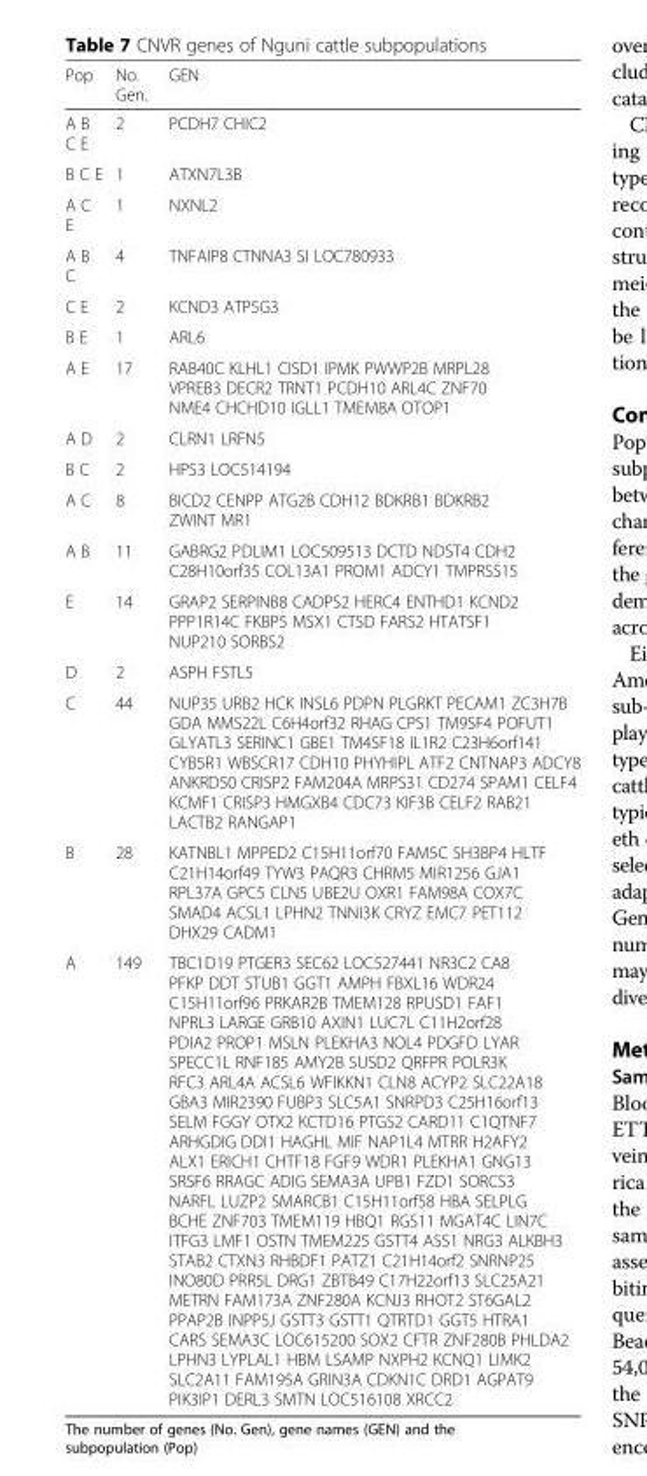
<table><thead><tr><td>Pop</td><td>No. Gen.</td><td>GEN</td></tr></thead><tbody><tr><td>A B C E</td><td>2</td><td>PCDH7 CHIC2</td></tr><tr><td>B C E</td><td>1</td><td>ATXN7L3B</td></tr><tr><td>A C E</td><td>1</td><td>NXNL2</td></tr><tr><td>A B C</td><td>4</td><td>TNFAIP8 CTNNA3 SI LOC780933</td></tr><tr><td>C E</td><td>2</td><td>KCND3 ATP5G3</td></tr><tr><td>B E</td><td>1</td><td>ARL6</td></tr><tr><td>A E</td><td>17</td><td>RAB40C KLHL1 CISD1 IPMK PWWP2B MRPL28 VPREB3 DECR2 TRNT1 PCDH10 ARL4C ZNF70 NME4 CHCHD10 IGLL1 TMEM8A OTOP1</td></tr><tr><td>A D</td><td>2</td><td>CLRN1 LRFN5</td></tr><tr><td>B C</td><td>2</td><td>HPS3 LOC514194</td></tr><tr><td>A C</td><td>8</td><td>BICD2 CENPP ATG2B CDH12 BDKRB1 BDKRB2 ZWINT MR1</td></tr><tr><td>A B</td><td>11</td><td>GABRG2 PDLIM1 LOC509513 DCTD NDST4 CDH2 C28H10orf35 COL13A1 PROM1 ADCY1 TMPRSS15</td></tr><tr><td>E</td><td>14</td><td>GRAP2 SERPINB8 CADPS2 HERC4 ENTHD1 KCND2 PPP1R14C FKBP5 MSX1 CTSD FARS2 HTATSF1 NUP210 SORBS2</td></tr><tr><td>D</td><td>2</td><td>ASPH FSTL5</td></tr><tr><td>C</td><td>44</td><td>NUP35 URB2 HCK INSL6 PDPN PLGRKT PECAM1 ZC3H7B GDA MMS22L C6H4orf32 RHAG CPS1 TM9SF4 POFUT1 GLYATL3 SERINC1 GBE1 TM4SF18 IL1R2 C23H6orf141 CYB5R1 WBSCR17 CDH10 PHYHIPL ATF2 CNTNAP3 ADCY8 ANKRD50 CRISP2 FAM204A MRPS31 CD274 SPAM1 CELF4 KCMF1 CRISP3 HMGXB4 CDC73 KIF3B CELF2 RAB21 LACTB2 RANGAP1</td></tr><tr><td>B</td><td>28</td><td>KATNBL1 MPPED2 C15H11orf70 FAM5C SH3BP4 HLTF C21H14orf49 TYW3 PAQR3 CHRM5 MIR1256 GJA1 RPL37A GPC5 CLN5 UBE2U OXR1 FAM98A COX7C SMAD4 ACSL1 LPHN2 TNNI3K CRYZ EMC7 PET112 DHX29 CADM1</td></tr><tr><td>A</td><td>149</td><td>TBC1D19 PTGER3 SEC62 LOC527441 NR3C2 CA8 PFKP DDT STUB1 GGT1 AMPH FBXL16 WDR24 C15H11orf96 PRKAR2B TMEM128 RPUSD1 FAF1 NPRL3 LARGE GRB10 AXIN1 LUC7L C11H2orf28 PDIA2 PROP1 MSLN PLEKHA3 NOL4 PDGFD LYAR SPECC1L RNF185 AMY2B SUSD2 QRFPR POLR3K RFC3 ARL4A ACSL6 WFIKKN1 CLN8 ACYP2 SLC22A18 GBA3 MIR2390 FUBP3 SLC5A1 SNRPD3 C25H16orf13 SELM FGGY OTX2 KCTD16 PTGS2 CARD11 C1QTNF7 ARHGDIG DDI1 HAGHL MIF NAP1L4 MTRR H2AFY2 ALX1 ERICH1 CHTF18 FGF9 WDR1 PLEKHA1 GNG13 SRSF6 RRAGC ADIG SEMA3A UPB1 FZD1 SORCS3 NARFL LUZP2 SMARCB1 C15H11orf58 HBA SELPLG BCHE ZNF703 TMEM119 HBQ1 RGS11 MGAT4C LIN7C ITFG3 LMF1 OSTN TMEM225 GSTT4 ASS1 NRG3 ALKBH3 STAB2 CTXN3 RHBDF1 PATZ1 C21H14orf2 SNRNP25 INO80D PRR5L DRG1 ZBTB49 C17H22orf13 SLC25A21 METRN FAM173A ZNF280A KCNJ3 RHOT2 ST6GAL2 PPAP2B INPP5J GSTT3 GSTT1 QTRTD1 GGT5 HTRA1 CARS SEMA3C LOC615200 SOX2 CFTR ZNF280B PHLDA2 LPHN3 LYPLAL1 HBM LSAMP NXPH2 KCNQ1 LIMK2 SLC2A11 FAM195A GRIN3A CDKN1C DRD1 AGPAT9 PIK3IP1 DERL3 SMTN LOC516108 XRCC2</td></tr></tbody></table>